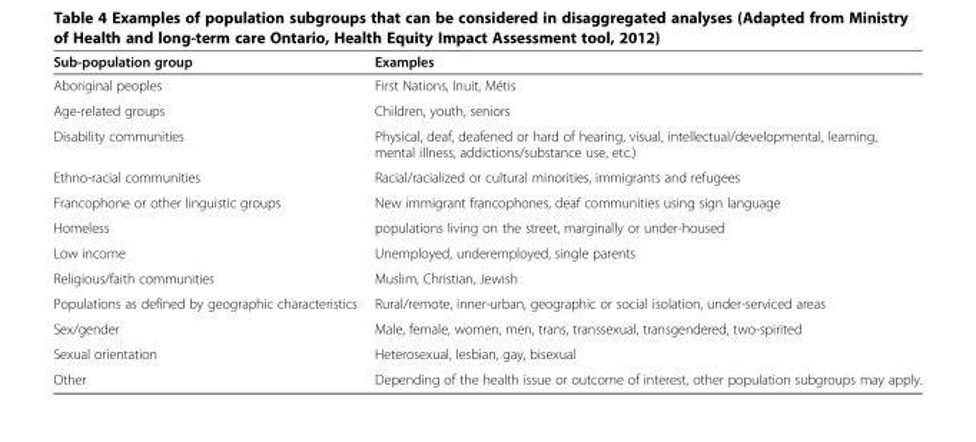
<table><thead><tr><td>Sub-population group</td><td>Examples</td></tr></thead><tbody><tr><td>Aboriginal peoples</td><td>First Nations, Inuit, Métis</td></tr><tr><td>Age-related groups</td><td>Children, youth, seniors</td></tr><tr><td>Disability communities</td><td>Physical, deaf, deafened or hard of hearing, visual, intellectual/developmental, learning, mental illness, addictions/substance use, etc.)</td></tr><tr><td>Ethno-racial communities</td><td>Racial/racialized or cultural minorities, immigrants and refugees</td></tr><tr><td>Francophone or other linguistic groups</td><td>New immigrant francophones, deaf communities using sign language</td></tr><tr><td>Homeless</td><td>populations living on the street, marginally or under-housed</td></tr><tr><td>Low income</td><td>Unemployed, underemployed, single parents</td></tr><tr><td>Religious/faith communities</td><td>Muslim, Christian, Jewish</td></tr><tr><td>Populations as defined by geographic characteristics</td><td>Rural/remote, inner-urban, geographic or social isolation, under-serviced areas</td></tr><tr><td>Sex/gender</td><td>Male, female, women, men, trans, transsexual, transgendered, two-spirited</td></tr><tr><td>Sexual orientation</td><td>Heterosexual, lesbian, gay, bisexual</td></tr><tr><td>Other</td><td>Depending of the health issue or outcome of interest, other population subgroups may apply.</td></tr></tbody></table>